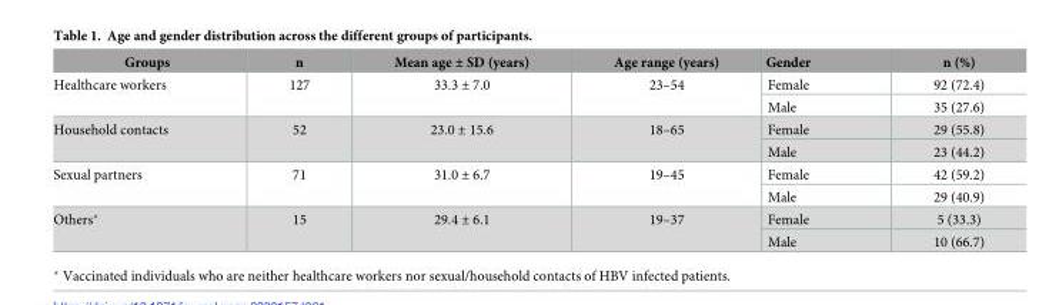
<table><thead><tr><td>Groups</td><td>n</td><td>Mean age ± SD (years)</td><td>Age range (years)</td><td>Gender</td><td>n (%)</td></tr></thead><tbody><tr><td rowspan="2">Healthcare workers</td><td rowspan="2">127</td><td rowspan="2">33.3 ± 7.0</td><td rowspan="2">23–54</td><td>Female</td><td>92 (72.4)</td></tr><tr><td>Male</td><td>35 (27.6)</td></tr><tr><td rowspan="2">Household contacts</td><td rowspan="2">52</td><td rowspan="2">23.0 ± 15.6</td><td rowspan="2">18–65</td><td>Female</td><td>29 (55.8)</td></tr><tr><td>Male</td><td>23 (44.2)</td></tr><tr><td rowspan="2">Sexual partners</td><td rowspan="2">71</td><td rowspan="2">31.0 ± 6.7</td><td rowspan="2">19–45</td><td>Female</td><td>42 (59.2)</td></tr><tr><td>Male</td><td>29 (40.9)</td></tr><tr><td rowspan="2">Others*</td><td rowspan="2">15</td><td rowspan="2">29.4 ± 6.1</td><td rowspan="2">19–37</td><td>Female</td><td>5 (33.3)</td></tr><tr><td>Male</td><td>10 (66.7)</td></tr></tbody></table>